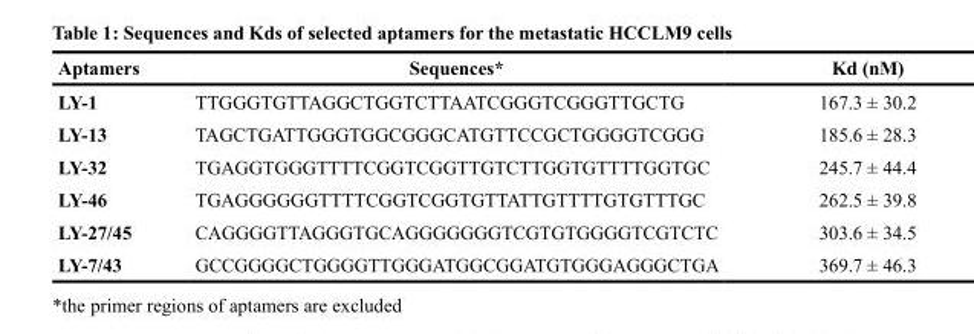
<table><thead><tr><td>Aptamers</td><td>Sequences*</td><td>Kd (nM)</td></tr></thead><tbody><tr><td>LY-1</td><td>TTGGGTGTTAGGCTGGTCTTAATCGGGTCGGGTTGCTG</td><td>167.3 ± 30.2</td></tr><tr><td>LY-13</td><td>TAGCTGATTGGGTGGCGGGCATGTTCCGCTGGGGTCGGG</td><td>185.6 ± 28.3</td></tr><tr><td>LY-32</td><td>TGAGGTGGGTTTTCGGTCGGTTGTCTTGGTGTTTTGGTGC</td><td>245.7 ± 44.4</td></tr><tr><td>LY-46</td><td>TGAGGGGGGTTTTCGGTCGGTGTTATTGTTTTGTGTTTGC</td><td>262.5 ± 39.8</td></tr><tr><td>LY-27/45</td><td>CAGGGGTTAGGGTGCAGGGGGGGTCGTGTGGGGTCGTCTC</td><td>303.6 ± 34.5</td></tr><tr><td>LY-7/43</td><td>GCCGGGGCTGGGGTTGGGATGGCGGATGTGGGAGGGCTGA</td><td>369.7 ± 46.3</td></tr></tbody></table>